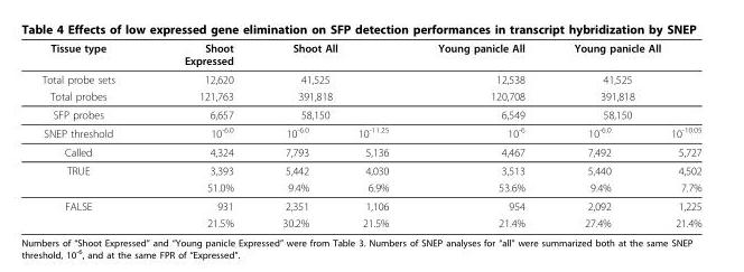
<table><thead><tr><td>Tissue type</td><td>Shoot Expressed</td><td colspan="2">Shoot All</td><td>Young panicle All</td><td colspan="2">Young panicle All</td></tr></thead><tbody><tr><td>Total probe sets</td><td>12,620</td><td colspan="2">41,525</td><td>12,538</td><td colspan="2">41,525</td></tr><tr><td>Total probes</td><td>121,763</td><td colspan="2">391,818</td><td>120,708</td><td colspan="2">391,818</td></tr><tr><td>SFP probes</td><td>6,657</td><td colspan="2">58,150</td><td>6,549</td><td colspan="2">58,150</td></tr><tr><td>SNEP threshold</td><td>10<sup>-6.0</sup></td><td>10<sup>-6.0</sup></td><td>10<sup>-11.25</sup></td><td>10<sup>-6</sup></td><td>10<sup>-6.0</sup></td><td>10<sup>-10.05</sup></td></tr><tr><td>Called</td><td>4,324</td><td>7,793</td><td>5,136</td><td>4,467</td><td>7,492</td><td>5,727</td></tr><tr><td rowspan="2">TRUE</td><td>3,393</td><td>5,442</td><td>4,030</td><td>3,513</td><td>5,440</td><td>4,502</td></tr><tr><td>51.0%</td><td>9.4%</td><td>6.9%</td><td>53.6%</td><td>9.4%</td><td>7.7%</td></tr><tr><td rowspan="2">FALSE</td><td>931</td><td>2,351</td><td>1,106</td><td>954</td><td>2,092</td><td>1,225</td></tr><tr><td>21.5%</td><td>30.2%</td><td>21.5%</td><td>21.4%</td><td>27.4%</td><td>21.4%</td></tr></tbody></table>